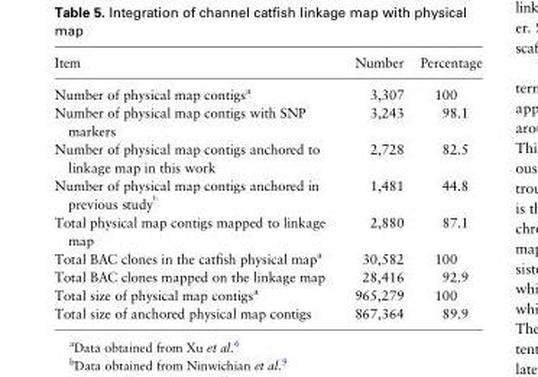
<table><thead><tr><td>Item</td><td>Number</td><td>Percentage</td></tr></thead><tbody><tr><td>Number of physical map contigs<sup>a</sup></td><td>3,307</td><td>100</td></tr><tr><td>Number of physical map contigs with SNP markers</td><td>3,243</td><td>98.1</td></tr><tr><td>Number of physical map contigs anchored to linkage map in this work</td><td>2,728</td><td>82.5</td></tr><tr><td>Number of physical map contigs anchored in previous study b</td><td>1,481</td><td>44.8</td></tr><tr><td>Total physical map contigs mapped to linkage map</td><td>2,880</td><td>87.1</td></tr><tr><td>Total BAC clones in the catfish physical map<sup>a</sup></td><td>30,582</td><td>100</td></tr><tr><td>Total BAC clones mapped on the linkage map</td><td>28,416</td><td>92.9</td></tr><tr><td>Total size of physical map contigs<sup>a</sup></td><td>965,279</td><td>100</td></tr><tr><td>Total size of anchored physical map contigs</td><td>867,364</td><td>89.9</td></tr></tbody></table>